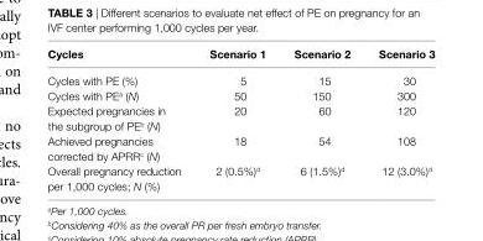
<table><thead><tr><td>Cycles</td><td>Scenario 1</td><td>Scenario 2</td><td>Scenario 3</td></tr></thead><tbody><tr><td>Cycles with PE (%)</td><td>5</td><td>15</td><td>30</td></tr><tr><td>Cycles with PE<sup>a</sup> (N)</td><td>50</td><td>150</td><td>300</td></tr><tr><td>Expected pregnancies in the subgroup of PE<sup>b</sup> (N)</td><td>20</td><td>60</td><td>120</td></tr><tr><td>Achieved pregnancies corrected by APRR<sup>c</sup> (N)</td><td>18</td><td>54</td><td>108</td></tr><tr><td>Overall pregnancy reduction per 1,000 cycles; N (%)</td><td>2 (0.5%)<sup>d</sup></td><td>6 (1.5%)<sup>d</sup></td><td>12 (3.0%)<sup>d</sup></td></tr></tbody></table>